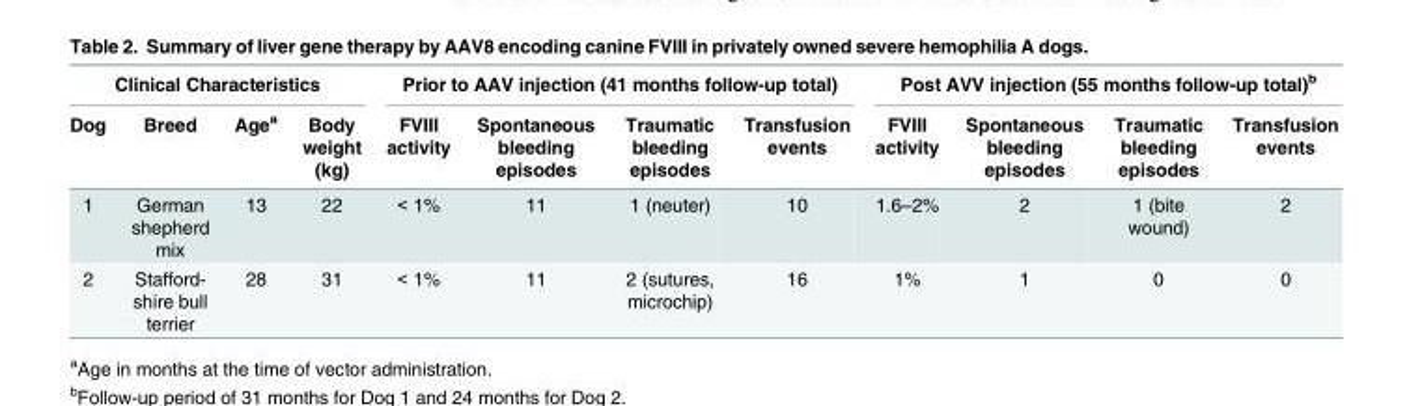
<table><thead><tr><td colspan="4">Clinical Characteristics</td><td colspan="4">Prior to AAV injection (41 months follow-up total)</td><td colspan="4">Post AVV injection (55 months follow-up total)<sup>b</sup></td></tr><tr><td>Dog</td><td>Breed</td><td>Age<sup>a</sup></td><td>Body weight (kg)</td><td>FVIII activity</td><td>Spontaneous bleeding episodes</td><td>Traumatic bleeding episodes</td><td>Transfusion events</td><td>FVIII activity</td><td>Spontaneous bleeding episodes</td><td>Traumatic bleeding episodes</td><td>Transfusion events</td></tr></thead><tbody><tr><td>1</td><td>German shepherd mix</td><td>13</td><td>22</td><td>&lt; 1%</td><td>11</td><td>1 (neuter)</td><td>10</td><td>1.6–2%</td><td>2</td><td>1 (bite wound)</td><td>2</td></tr><tr><td>2</td><td>Stafford- shire bull terrier</td><td>28</td><td>31</td><td>&lt; 1%</td><td>11</td><td>2 (sutures, microchip)</td><td>16</td><td>1%</td><td>1</td><td>0</td><td>0</td></tr></tbody></table>